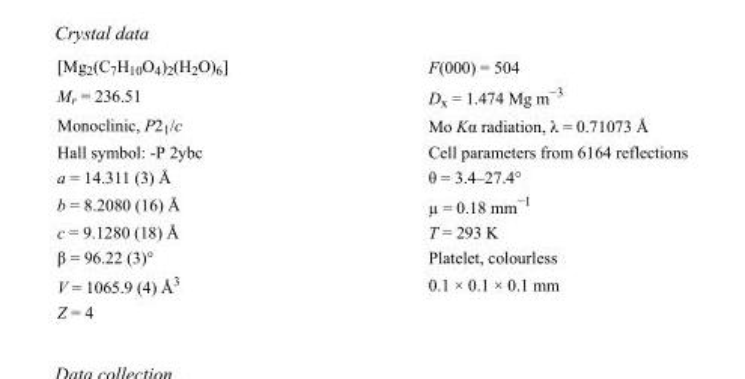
<table><tbody><tr><td>[Mg<sub>2</sub>(C<sub>7</sub>H<sub>10</sub>O<sub>4</sub>)<sub>2</sub>(H<sub>2</sub>O)<sub>6</sub>]</td><td>F(000) = 504</td></tr><tr><td>M<sub>r</sub> = 236.51</td><td>D<sub>x</sub> = 1.474 Mg m<sup>−3</sup></td></tr><tr><td>Monoclinic, P2<sub>1</sub>/c</td><td>Mo Kα radiation, λ = 0.71073 Å</td></tr><tr><td>Hall symbol: -P 2ybc</td><td>Cell parameters from 6164 reflections</td></tr><tr><td>a = 14.311 (3) Å</td><td>θ = 3.4–27.4°</td></tr><tr><td>b = 8.2080 (16) Å</td><td>µ = 0.18 mm<sup>−1</sup></td></tr><tr><td>c = 9.1280 (18) Å</td><td>T = 293 K</td></tr><tr><td>β = 96.22 (3)°</td><td>Platelet, colourless</td></tr><tr><td>V = 1065.9 (4) Å<sup>3</sup></td><td>0.1 × 0.1 × 0.1 mm</td></tr><tr><td>Z = 4</td><td></td></tr></tbody></table>